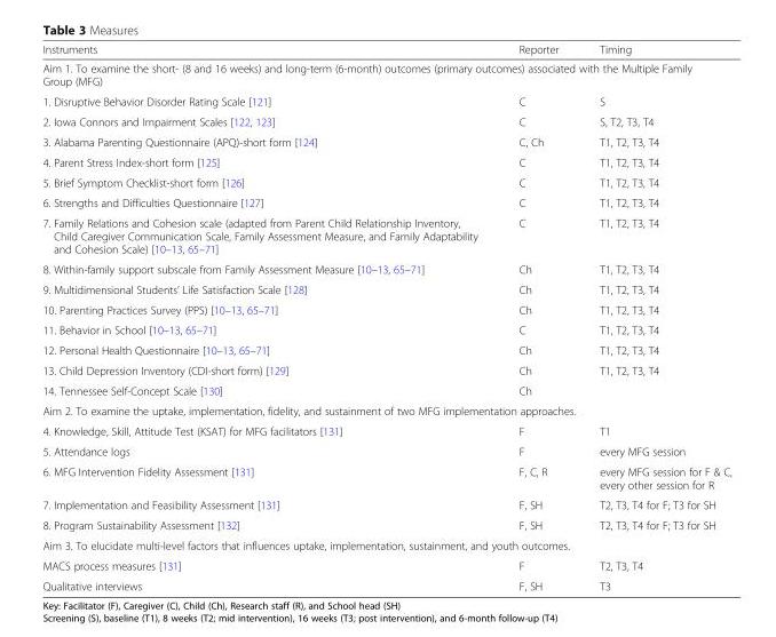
<table><thead><tr><td>Instruments</td><td>Reporter</td><td>Timing</td></tr></thead><tbody><tr><td colspan="3">Aim 1. To examine the short- (8 and 16 weeks) and long-term (6-month) outcomes (primary outcomes) associated with the Multiple Family Group (MFG)</td></tr><tr><td>1. Disruptive Behavior Disorder Rating Scale [121]</td><td>C</td><td>S</td></tr><tr><td>2. Iowa Connors and Impairment Scales [122, 123]</td><td>C</td><td>S, T2, T3, T4</td></tr><tr><td>3. Alabama Parenting Questionnaire (APQ)-short form [124]</td><td>C, Ch</td><td>T1, T2, T3, T4</td></tr><tr><td>4. Parent Stress Index-short form [125]</td><td>C</td><td>T1, T2, T3, T4</td></tr><tr><td>5. Brief Symptom Checklist-short form [126]</td><td>C</td><td>T1, T2, T3, T4</td></tr><tr><td>6. Strengths and Difficulties Questionnaire [127]</td><td>C</td><td>T1, T2, T3, T4</td></tr><tr><td>7. Family Relations and Cohesion scale (adapted from Parent Child Relationship Inventory, Child Caregiver Communication Scale, Family Assessment Measure, and Family Adaptability and Cohesion Scale) [10–13, 65–71]</td><td>C</td><td>T1, T2, T3, T4</td></tr><tr><td>8. Within-family support subscale from Family Assessment Measure [10–13, 65–71]</td><td>Ch</td><td>T1, T2, T3, T4</td></tr><tr><td>9. Multidimensional Students’ Life Satisfaction Scale [128]</td><td>Ch</td><td>T1, T2, T3, T4</td></tr><tr><td>10. Parenting Practices Survey (PPS) [10–13, 65–71]</td><td>Ch</td><td>T1, T2, T3, T4</td></tr><tr><td>11. Behavior in School [10–13, 65–71]</td><td>C</td><td>T1, T2, T3, T4</td></tr><tr><td>12. Personal Health Questionnaire [10–13, 65–71]</td><td>Ch</td><td>T1, T2, T3, T4</td></tr><tr><td>13. Child Depression Inventory (CDI-short form) [129]</td><td>Ch</td><td>T1, T2, T3, T4</td></tr><tr><td>14. Tennessee Self-Concept Scale [130]</td><td>Ch</td><td></td></tr><tr><td colspan="3">Aim 2. To examine the uptake, implementation, fidelity, and sustainment of two MFG implementation approaches.</td></tr><tr><td>4. Knowledge, Skill, Attitude Test (KSAT) for MFG facilitators [131]</td><td>F</td><td>T1</td></tr><tr><td>5. Attendance logs</td><td>F</td><td>every MFG session</td></tr><tr><td>6. MFG Intervention Fidelity Assessment [131]</td><td>F, C, R</td><td>every MFG session for F &amp; C, every other session for R</td></tr><tr><td>7. Implementation and Feasibility Assessment [131]</td><td>F, SH</td><td>T2, T3, T4 for F; T3 for SH</td></tr><tr><td>8. Program Sustainability Assessment [132]</td><td>F, SH</td><td>T2, T3, T4 for F; T3 for SH</td></tr><tr><td colspan="3">Aim 3. To elucidate multi-level factors that influences uptake, implementation, sustainment, and youth outcomes.</td></tr><tr><td>MACS process measures [131]</td><td>F</td><td>T2, T3, T4</td></tr><tr><td>Qualitative interviews</td><td>F, SH</td><td>T3</td></tr></tbody></table>